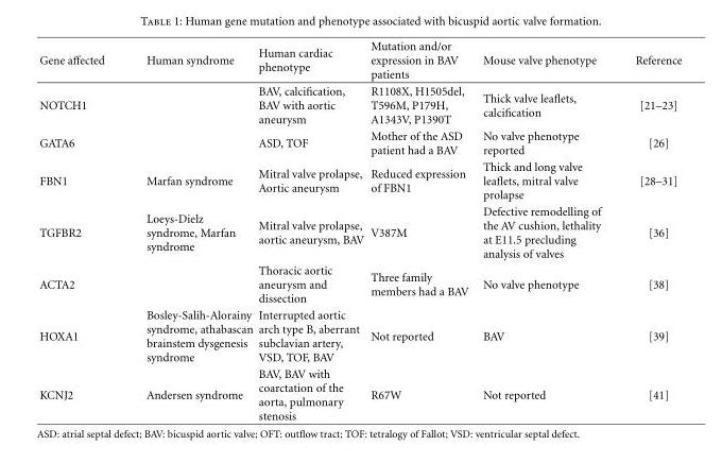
<table><thead><tr><td>Gene affected</td><td>Human syndrome</td><td>Human cardiac phenotype</td><td>Mutation and/or expression in BAV patients</td><td>Mouse valve phenotype</td><td>Reference</td></tr></thead><tbody><tr><td>NOTCH1</td><td></td><td>BAV, calcification, BAV with aortic aneurysm</td><td>R1108X, H1505del, T596M, P179H, A1343V, P1390T</td><td>Thick valve leaflets, calcification</td><td>[21–23]</td></tr><tr><td>GATA6</td><td></td><td>ASD, TOF</td><td>Mother of the ASD patient had a BAV</td><td>No valve phenotype reported</td><td>[26]</td></tr><tr><td>FBN1</td><td>Marfan syndrome</td><td>Mitral valve prolapse, Aortic aneurysm</td><td>Reduced expression of FBN1</td><td>Thick and long valve leaflets, mitral valve prolapse</td><td>[28–31]</td></tr><tr><td>TGFBR2</td><td>Loeys-Dielz syndrome, Marfan syndrome</td><td>Mitral valve prolapse, aortic aneurysm, BAV</td><td>V387M</td><td>Defective remodelling of the AV cushion, lethality at E11.5 precluding analysis of valves</td><td>[36]</td></tr><tr><td>ACTA2</td><td></td><td>Thoracic aortic aneurysm and dissection</td><td>Three family members had a BAV</td><td>No valve phenotype</td><td>[38]</td></tr><tr><td>HOXA1</td><td>Bosley-Salih-Alorainy syndrome, athabascan brainstem dysgenesis syndrome</td><td>Interrupted aortic arch type B, aberrant subclavian artery, VSD, TOF, BAV</td><td>Not reported</td><td>BAV</td><td>[39]</td></tr><tr><td>KCNJ2</td><td>Andersen syndrome</td><td>BAV, BAV with coarctation of the aorta, pulmonary stenosis</td><td>R67W</td><td>Not reported</td><td>[41]</td></tr></tbody></table>